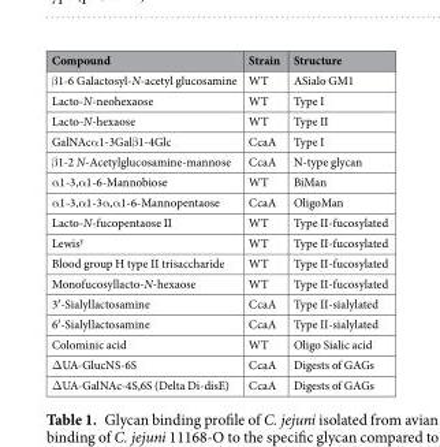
<table><thead><tr><td>Compound</td><td>Strain</td><td>Structure</td></tr></thead><tbody><tr><td>β1-6 Galactosyl-N-acetyl glucosamine</td><td>WT</td><td>ASialo GM1</td></tr><tr><td>Lacto-N-neohexaose</td><td>WT</td><td>Type I</td></tr><tr><td>Lacto-N-hexaose</td><td>WT</td><td>Type II</td></tr><tr><td>GalNAcα1-3Galβ1-4Glc</td><td>CcaA</td><td>Type I</td></tr><tr><td>β1-2 N-Acetylglucosamine-mannose</td><td>CcaA</td><td>N-type glycan</td></tr><tr><td>α1-3,α1-6-Mannobiose</td><td>WT</td><td>BiMan</td></tr><tr><td>α1-3,α1-3α,α1-6-Mannopentaose</td><td>CcaA</td><td>OligoMan</td></tr><tr><td>Lacto-N-fucopentaose II</td><td>WT</td><td>Type II-fucosylated</td></tr><tr><td>Lewis<sup>y</sup></td><td>WT</td><td>Type II-fucosylated</td></tr><tr><td>Blood group H type II trisaccharide</td><td>WT</td><td>Type II-fucosylated</td></tr><tr><td>Monofucosyllacto-N-hexaose</td><td>WT</td><td>Type II-fucosylated</td></tr><tr><td>3′-Sialyllactosamine</td><td>CcaA</td><td>Type II-sialylated</td></tr><tr><td>6′-Sialyllactosamine</td><td>CcaA</td><td>Type II-sialylated</td></tr><tr><td>Colominic acid</td><td>WT</td><td>Oligo Sialic acid</td></tr><tr><td>ΔUA-GlucNS-6S</td><td>CcaA</td><td>Digests of GAGs</td></tr><tr><td>ΔUA-GalNAc-4S,6S (Delta Di-disE)</td><td>CcaA</td><td>Digests of GAGs</td></tr></tbody></table>